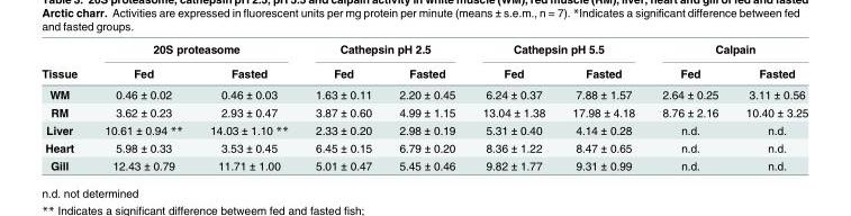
<table><thead><tr><td rowspan="2">Tissue</td><td colspan="2">20S proteasome</td><td colspan="2">Cathepsin pH 2.5</td><td colspan="2">Cathepsin pH 5.5</td><td colspan="2">Calpain</td></tr><tr><td>Fed</td><td>Fasted</td><td>Fed</td><td>Fasted</td><td>Fed</td><td>Fasted</td><td>Fed</td><td>Fasted</td></tr></thead><tbody><tr><td>WM</td><td>0.46 ± 0.02</td><td>0.46 ± 0.03</td><td>1.63 ± 0.11</td><td>2.20 ± 0.45</td><td>6.24 ± 0.37</td><td>7.88 ± 1.57</td><td>2.64 ± 0.25</td><td>3.11 ± 0.56</td></tr><tr><td>RM</td><td>3.62 ± 0.23</td><td>2.93 ± 0.47</td><td>3.87 ± 0.60</td><td>4.99 ± 1.15</td><td>13.04 ± 1.38</td><td>17.98 ± 4.18</td><td>8.76 ± 2.16</td><td>10.40 ± 3.25</td></tr><tr><td>Liver</td><td>10.61 ± 0.94 **</td><td>14.03 ± 1.10 **</td><td>2.33 ± 0.20</td><td>2.98 ± 0.19</td><td>5.31 ± 0.40</td><td>4.14 ± 0.28</td><td>n.d.</td><td>n.d.</td></tr><tr><td>Heart</td><td>5.98 ± 0.33</td><td>3.53 ± 0.45</td><td>6.45 ± 0.15</td><td>6.79 ± 0.20</td><td>8.36 ± 1.22</td><td>8.47 ± 0.65</td><td>n.d.</td><td>n.d.</td></tr><tr><td>Gill</td><td>12.43 ± 0.79</td><td>11.71 ± 1.00</td><td>5.01 ± 0.47</td><td>5.45 ± 0.46</td><td>9.82 ± 1.77</td><td>9.31 ± 0.99</td><td>n.d.</td><td>n.d.</td></tr></tbody></table>